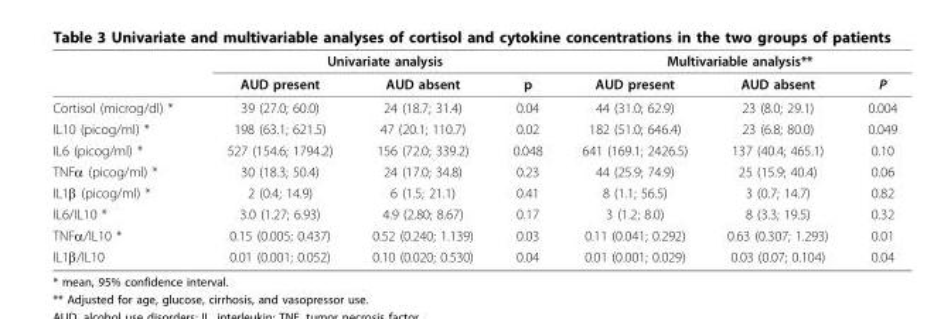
<table><thead><tr><td rowspan="2"></td><td colspan="3">Univariate analysis</td><td colspan="3">Multivariable analysis**</td></tr><tr><td>AUD present</td><td>AUD absent</td><td>p</td><td>AUD present</td><td>AUD absent</td><td>P</td></tr></thead><tbody><tr><td>Cortisol (microg/dl) *</td><td>39 (27.0; 60.0)</td><td>24 (18.7; 31.4)</td><td>0.04</td><td>44 (31.0; 62.9)</td><td>23 (8.0; 29.1)</td><td>0.004</td></tr><tr><td>IL10 (picog/ml) *</td><td>198 (63.1; 621.5)</td><td>47 (20.1; 110.7)</td><td>0.02</td><td>182 (51.0; 646.4)</td><td>23 (6.8; 80.0)</td><td>0.049</td></tr><tr><td>IL6 (picog/ml) *</td><td>527 (154.6; 1794.2)</td><td>156 (72.0; 339.2)</td><td>0.048</td><td>641 (169.1; 2426.5)</td><td>137 (40.4; 465.1)</td><td>0.10</td></tr><tr><td>TNFα (picog/ml) *</td><td>30 (18.3; 50.4)</td><td>24 (17.0; 34.8)</td><td>0.23</td><td>44 (25.9; 74.9)</td><td>25 (15.9; 40.4)</td><td>0.06</td></tr><tr><td>IL1β (picog/ml) *</td><td>2 (0.4; 14.9)</td><td>6 (1.5; 21.1)</td><td>0.41</td><td>8 (1.1; 56.5)</td><td>3 (0.7; 14.7)</td><td>0.82</td></tr><tr><td>IL6/IL10 *</td><td>3.0 (1.27; 6.93)</td><td>4.9 (2.80; 8.67)</td><td>0.17</td><td>3 (1.2; 8.0)</td><td>8 (3.3; 19.5)</td><td>0.32</td></tr><tr><td>TNFα/IL10 *</td><td>0.15 (0.005; 0.437)</td><td>0.52 (0.240; 1.139)</td><td>0.03</td><td>0.11 (0.041; 0.292)</td><td>0.63 (0.307; 1.293)</td><td>0.01</td></tr><tr><td>IL1β/IL10</td><td>0.01 (0.001; 0.052)</td><td>0.10 (0.020; 0.530)</td><td>0.04</td><td>0.01 (0.001; 0.029)</td><td>0.03 (0.07; 0.104)</td><td>0.04</td></tr></tbody></table>